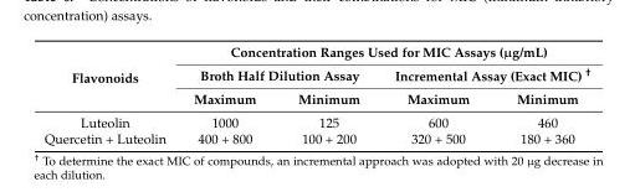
<table><thead><tr><td rowspan="3">Flavonoids</td><td colspan="4">Concentration Ranges Used for MIC Assays (µg/mL)</td></tr><tr><td colspan="2">Broth Half Dilution Assay</td><td colspan="2">Incremental Assay (Exact MIC) <sup>†</sup></td></tr><tr><td>Maximum</td><td>Minimum</td><td>Maximum</td><td>Minimum</td></tr></thead><tbody><tr><td>Luteolin</td><td>1000</td><td>125</td><td>600</td><td>460</td></tr><tr><td>Quercetin + Luteolin</td><td>400 + 800</td><td>100 + 200</td><td>320 + 500</td><td>180 + 360</td></tr></tbody></table>